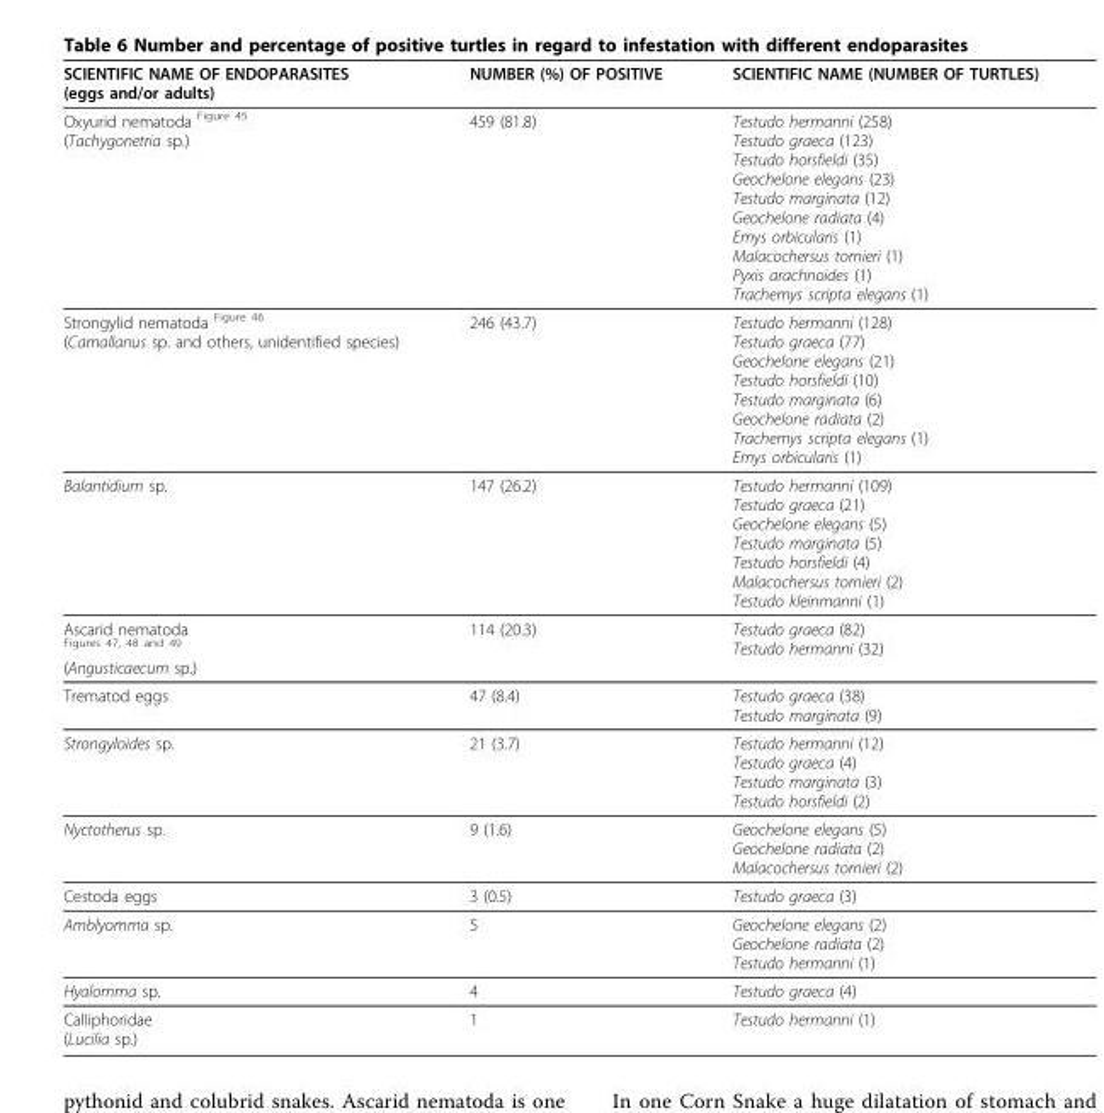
<table><thead><tr><td>SCIENTIFIC NAME OF ENDOPARASITES (eggs and/or adults)</td><td>NUMBER (%) OF POSITIVE</td><td>SCIENTIFIC NAME (NUMBER OF TURTLES)</td></tr></thead><tbody><tr><td>Oxyurid nematoda <sup>Figure 45</sup> (Tachygonetria sp.)</td><td>459 (81.8)</td><td>Testudo hermanni (258) Testudo graeca (123) Testudo horsfieldi (35) Geochelone elegans (23) Testudo marginata (12) Geochelone radiata (4) Emys orbicularis (1) Malacochersus tornieri (1) Pyxis arachnoides (1) Trachemys scripta elegans (1)</td></tr><tr><td>Strongylid nematoda <sup>Figure 46</sup> (Camallanus sp. and others, unidentified species)</td><td>246 (43.7)</td><td>Testudo hermanni (128) Testudo graeca (77) Geochelone elegans (21) Testudo horsfieldi (10) Testudo marginata (6) Geochelone radiata (2) Trachemys scripta elegans (1) Emys orbicularis (1)</td></tr><tr><td>Balantidium sp.</td><td>147 (26.2)</td><td>Testudo hermanni (109) Testudo graeca (21) Geochelone elegans (5) Testudo marginata (5) Testudo horsfieldi (4) Malacochersus tornieri (2) Testudo kleinmanni (1)</td></tr><tr><td>Ascarid nematoda <sup>Figures 47, 48 and 49</sup> (Angusticaecum sp.)</td><td>114 (20.3)</td><td>Testudo graeca (82) Testudo hermanni (32)</td></tr><tr><td>Trematod eggs</td><td>47 (8.4)</td><td>Testudo graeca (38) Testudo marginata (9)</td></tr><tr><td>Strongyloides sp.</td><td>21 (3.7)</td><td>Testudo hermanni (12) Testudo graeca (4) Testudo marginata (3) Testudo horsfieldi (2)</td></tr><tr><td>Nyctotherus sp.</td><td>9 (1.6)</td><td>Geochelone elegans (5) Geochelone radiata (2) Malacochersus tornieri (2)</td></tr><tr><td>Cestoda eggs</td><td>3 (0.5)</td><td>Testudo graeca (3)</td></tr><tr><td>Amblyomma sp.</td><td>5</td><td>Geochelone elegans (2) Geochelone radiata (2) Testudo hermanni (1)</td></tr><tr><td>Hyalomma sp.</td><td>4</td><td>Testudo graeca (4)</td></tr><tr><td>Calliphoridae (Lucilia sp.)</td><td>1</td><td>Testudo hermanni (1)</td></tr></tbody></table>